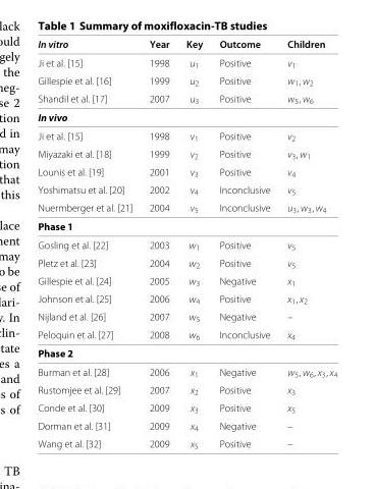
<table><thead><tr><td>In vitro</td><td>Year</td><td>Key</td><td>Outcome</td><td>Children</td></tr></thead><tbody><tr><td>Ji et al. [15]</td><td>1998</td><td>u<sub>1</sub></td><td>Positive</td><td>v<sub>1</sub></td></tr><tr><td>Gillespie et al. [16]</td><td>1999</td><td>u<sub>2</sub></td><td>Positive</td><td>w<sub>1</sub>, w<sub>2</sub></td></tr><tr><td>Shandil et al. [17]</td><td>2007</td><td>u<sub>3</sub></td><td>Positive</td><td>w<sub>5</sub>, w<sub>6</sub></td></tr><tr><td colspan="5">In vivo</td></tr><tr><td>Ji et al. [15]</td><td>1998</td><td>v<sub>1</sub></td><td>Positive</td><td>v<sub>2</sub></td></tr><tr><td>Miyazaki et al. [18]</td><td>1999</td><td>v<sub>2</sub></td><td>Positive</td><td>v<sub>3</sub>, w<sub>1</sub></td></tr><tr><td>Lounis et al. [19]</td><td>2001</td><td>v<sub>3</sub></td><td>Positive</td><td>v<sub>4</sub></td></tr><tr><td>Yoshimatsu et al. [20]</td><td>2002</td><td>v<sub>4</sub></td><td>Inconclusive</td><td>v<sub>5</sub></td></tr><tr><td>Nuermberger et al. [21]</td><td>2004</td><td>v<sub>5</sub></td><td>Inconclusive</td><td>u<sub>3</sub>, w<sub>3</sub>, w<sub>4</sub></td></tr><tr><td colspan="5">Phase 1</td></tr><tr><td>Gosling et al. [22]</td><td>2003</td><td>w<sub>1</sub></td><td>Positive</td><td>v<sub>5</sub></td></tr><tr><td>Pletz et al. [23]</td><td>2004</td><td>w<sub>2</sub></td><td>Positive</td><td>v<sub>5</sub></td></tr><tr><td>Gillespie et al. [24]</td><td>2005</td><td>w<sub>3</sub></td><td>Negative</td><td>x<sub>1</sub></td></tr><tr><td>Johnson et al. [25]</td><td>2006</td><td>w<sub>4</sub></td><td>Positive</td><td>x<sub>1</sub>, x<sub>2</sub></td></tr><tr><td>Nijland et al. [26]</td><td>2007</td><td>w<sub>5</sub></td><td>Negative</td><td>–</td></tr><tr><td>Peloquin et al. [27]</td><td>2008</td><td>w<sub>6</sub></td><td>Inconclusive</td><td>x<sub>4</sub></td></tr><tr><td colspan="5">Phase 2</td></tr><tr><td>Burman et al. [28]</td><td>2006</td><td>x<sub>1</sub></td><td>Negative</td><td>w<sub>5</sub>, w<sub>6</sub>, x<sub>3</sub>, x<sub>4</sub></td></tr><tr><td>Rustomjee et al. [29]</td><td>2007</td><td>x<sub>2</sub></td><td>Positive</td><td>x<sub>3</sub></td></tr><tr><td>Conde et al. [30]</td><td>2009</td><td>x<sub>3</sub></td><td>Positive</td><td>x<sub>5</sub></td></tr><tr><td>Dorman et al. [31]</td><td>2009</td><td>x<sub>4</sub></td><td>Negative</td><td>–</td></tr><tr><td>Wang et al. [32]</td><td>2009</td><td>x<sub>5</sub></td><td>Positive</td><td>–</td></tr></tbody></table>